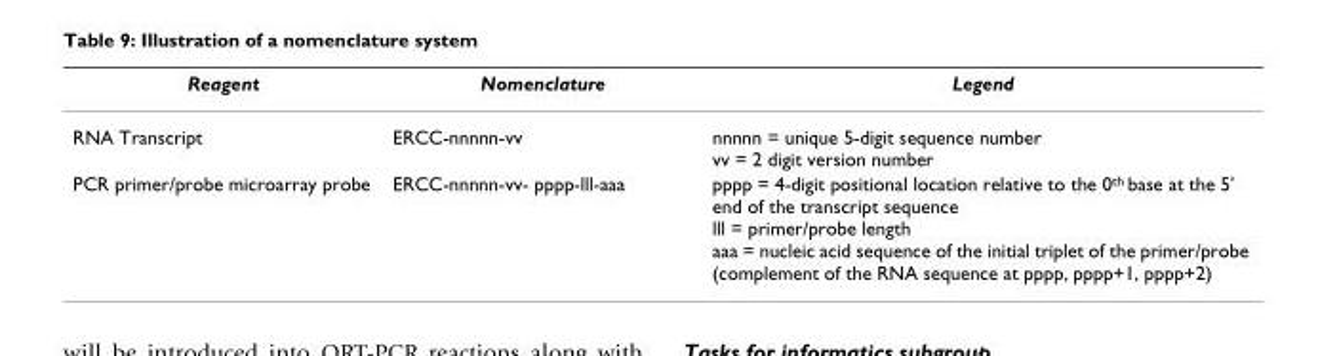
<table><thead><tr><td>Reagent</td><td>Nomenclature</td><td>Legend</td></tr></thead><tbody><tr><td>RNA Transcript</td><td>ERCC-nnnnn-vv</td><td>nnnnn = unique 5-digit sequence number vv = 2 digit version number</td></tr><tr><td>PCR primer/probe microarray probe</td><td>ERCC-nnnnn-vv- pppp-lll-aaa</td><td>pppp = 4-digit positional location relative to the 0<sup>th</sup> base at the 5&#x27; end of the transcript sequence lll = primer/probe length aaa = nucleic acid sequence of the initial triplet of the primer/probe (complement of the RNA sequence at pppp, pppp+1, pppp+2)</td></tr></tbody></table>